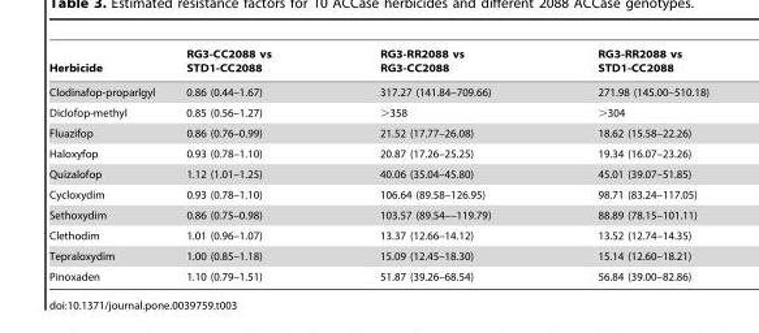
<table><thead><tr><td>Herbicide</td><td>RG3-CC2088 vs STD1-CC2088</td><td>RG3-RR2088 vs RG3-CC2088</td><td>RG3-RR2088 vs STD1-CC2088</td></tr></thead><tbody><tr><td>Clodinafop-proparlgyl</td><td>0.86 (0.44–1.67)</td><td>317.27 (141.84–709.66)</td><td>271.98 (145.00–510.18)</td></tr><tr><td>Diclofop-methyl</td><td>0.85 (0.56–1.27)</td><td>&gt;358</td><td>&gt;304</td></tr><tr><td>Fluazifop</td><td>0.86 (0.76–0.99)</td><td>21.52 (17.77–26.08)</td><td>18.62 (15.58–22.26)</td></tr><tr><td>Haloxyfop</td><td>0.93 (0.78–1.10)</td><td>20.87 (17.26–25.25)</td><td>19.34 (16.07–23.26)</td></tr><tr><td>Quizalofop</td><td>1.12 (1.01–1.25)</td><td>40.06 (35.04–45.80)</td><td>45.01 (39.07–51.85)</td></tr><tr><td>Cycloxydim</td><td>0.93 (0.78–1.10)</td><td>106.64 (89.58–126.95)</td><td>98.71 (83.24–117.05)</td></tr><tr><td>Sethoxydim</td><td>0.86 (0.75–0.98)</td><td>103.57 (89.54––119.79)</td><td>88.89 (78.15–101.11)</td></tr><tr><td>Clethodim</td><td>1.01 (0.96–1.07)</td><td>13.37 (12.66–14.12)</td><td>13.52 (12.74–14.35)</td></tr><tr><td>Tepraloxydim</td><td>1.00 (0.85–1.18)</td><td>15.09 (12.45–18.30)</td><td>15.14 (12.60–18.21)</td></tr><tr><td>Pinoxaden</td><td>1.10 (0.79–1.51)</td><td>51.87 (39.26–68.54)</td><td>56.84 (39.00–82.86)</td></tr></tbody></table>